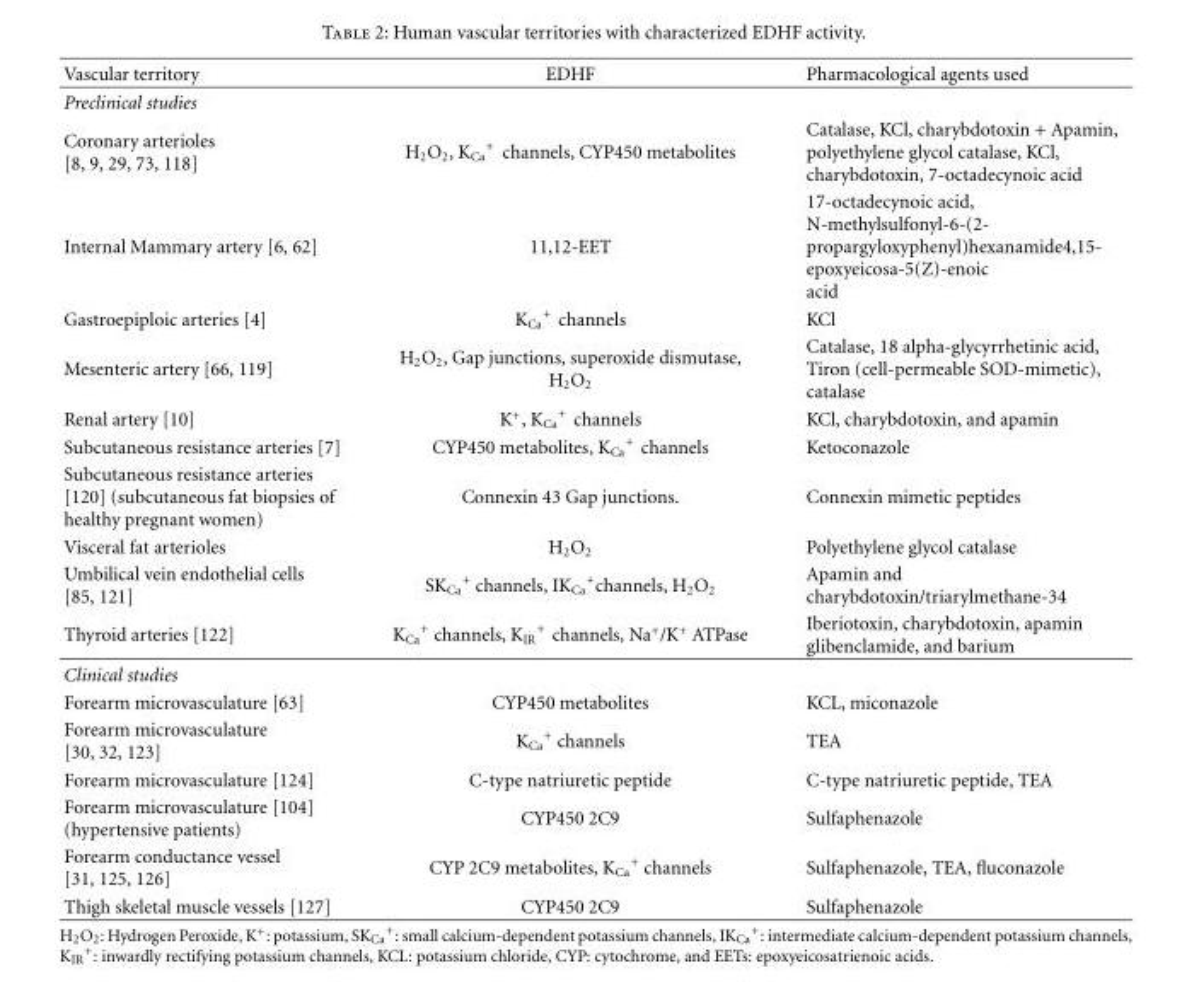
<table><thead><tr><td>Vascular territory</td><td>EDHF</td><td>Pharmacological agents used</td></tr></thead><tbody><tr><td colspan="3">Preclinical studies</td></tr><tr><td>Coronary arterioles [8, 9, 29, 73, 118]</td><td>H<sub>2</sub>O<sub>2</sub>, K<sub>Ca</sub> <sup>+</sup> channels, CYP450 metabolites</td><td>Catalase, KCl, charybdotoxin + Apamin, polyethylene glycol catalase, KCl, charybdotoxin, 7-octadecynoic acid</td></tr><tr><td>Internal Mammary artery [6, 62]</td><td>11,12-EET</td><td>17-octadecynoic acid, N-methylsulfonyl-6-(2- propargyloxyphenyl)hexanamide4,15- epoxyeicosa-5(Z)-enoic acid</td></tr><tr><td>Gastroepiploic arteries [4]</td><td>K<sub>Ca</sub> <sup>+</sup> channels</td><td>KCl</td></tr><tr><td>Mesenteric artery [66, 119]</td><td>H<sub>2</sub>O<sub>2</sub>, Gap junctions, superoxide dismutase, H<sub>2</sub>O<sub>2</sub></td><td>Catalase, 18 alpha-glycyrrhetinic acid, Tiron (cell-permeable SOD-mimetic), catalase</td></tr><tr><td>Renal artery [10]</td><td>K<sup>+</sup>, K<sub>Ca</sub> <sup>+</sup> channels</td><td>KCl, charybdotoxin, and apamin</td></tr><tr><td>Subcutaneous resistance arteries [7]</td><td>CYP450 metabolites, K<sub>Ca</sub> <sup>+</sup> channels</td><td>Ketoconazole</td></tr><tr><td>Subcutaneous resistance arteries [120] (subcutaneous fat biopsies of healthy pregnant women)</td><td>Connexin 43 Gap junctions.</td><td>Connexin mimetic peptides</td></tr><tr><td>Visceral fat arterioles</td><td>H<sub>2</sub>O<sub>2</sub></td><td>Polyethylene glycol catalase</td></tr><tr><td>Umbilical vein endothelial cells [85, 121]</td><td>SK<sub>Ca</sub> <sup>+</sup> channels, IK<sub>Ca</sub> <sup>+</sup>channels, H<sub>2</sub>O<sub>2</sub></td><td>Apamin and charybdotoxin/triarylmethane-34</td></tr><tr><td>Thyroid arteries [122]</td><td>K<sub>Ca</sub> <sup>+</sup> channels, K<sub>IR</sub> <sup>+</sup> channels, Na<sup>+</sup>/K<sup>+</sup> ATPase</td><td>Iberiotoxin, charybdotoxin, apamin glibenclamide, and barium</td></tr><tr><td colspan="3">Clinical studies</td></tr><tr><td>Forearm microvasculature [63]</td><td>CYP450 metabolites</td><td>KCL, miconazole</td></tr><tr><td>Forearm microvasculature [30, 32, 123]</td><td>K<sub>Ca</sub> <sup>+</sup> channels</td><td>TEA</td></tr><tr><td>Forearm microvasculature [124]</td><td>C-type natriuretic peptide</td><td>C-type natriuretic peptide, TEA</td></tr><tr><td>Forearm microvasculature [104] (hypertensive patients)</td><td>CYP450 2C9</td><td>Sulfaphenazole</td></tr><tr><td>Forearm conductance vessel [31, 125, 126]</td><td>CYP 2C9 metabolites, K<sub>Ca</sub> <sup>+</sup> channels</td><td>Sulfaphenazole, TEA, fluconazole</td></tr><tr><td>Thigh skeletal muscle vessels [127]</td><td>CYP450 2C9</td><td>Sulfaphenazole</td></tr></tbody></table>